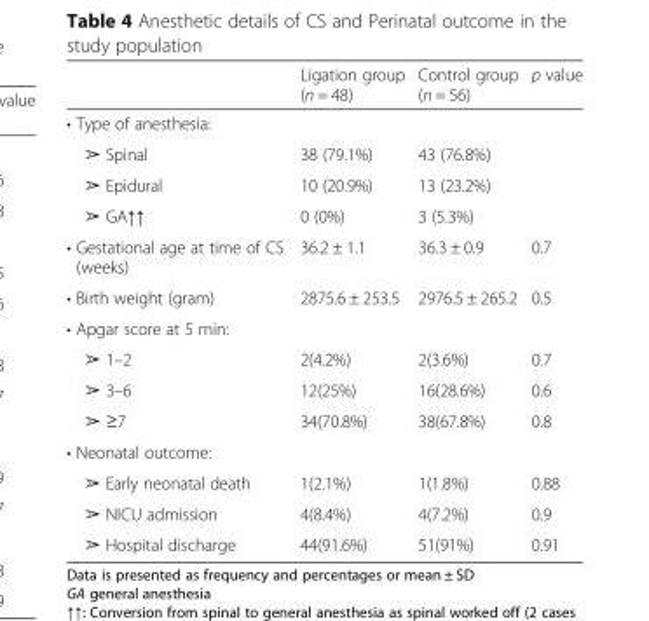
<table><thead><tr><td></td><td>Ligation group (n = 48)</td><td>Control group (n = 56)</td><td>p value</td></tr></thead><tbody><tr><td colspan="4">• Type of anesthesia:</td></tr><tr><td>➢ Spinal</td><td>38 (79.1%)</td><td>43 (76.8%)</td><td></td></tr><tr><td>➢ Epidural</td><td>10 (20.9%)</td><td>13 (23.2%)</td><td></td></tr><tr><td>➢ GA↑↑</td><td>0 (0%)</td><td>3 (5.3%)</td><td></td></tr><tr><td>• Gestational age at time of CS (weeks)</td><td>36.2 ± 1.1</td><td>36.3 ± 0.9</td><td>0.7</td></tr><tr><td>• Birth weight (gram)</td><td>2875.6 ± 253.5</td><td>2976.5 ± 265.2</td><td>0.5</td></tr><tr><td colspan="4">• Apgar score at 5 min:</td></tr><tr><td>➢ 1–2</td><td>2(4.2%)</td><td>2(3.6%)</td><td>0.7</td></tr><tr><td>➢ 3–6</td><td>12(25%)</td><td>16(28.6%)</td><td>0.6</td></tr><tr><td>➢ ≥7</td><td>34(70.8%)</td><td>38(67.8%)</td><td>0.8</td></tr><tr><td colspan="4">• Neonatal outcome:</td></tr><tr><td>➢ Early neonatal death</td><td>1(2.1%)</td><td>1(1.8%)</td><td>0.88</td></tr><tr><td>➢ NICU admission</td><td>4(8.4%)</td><td>4(7.2%)</td><td>0.9</td></tr><tr><td>➢ Hospital discharge</td><td>44(91.6%)</td><td>51(91%)</td><td>0.91</td></tr></tbody></table>